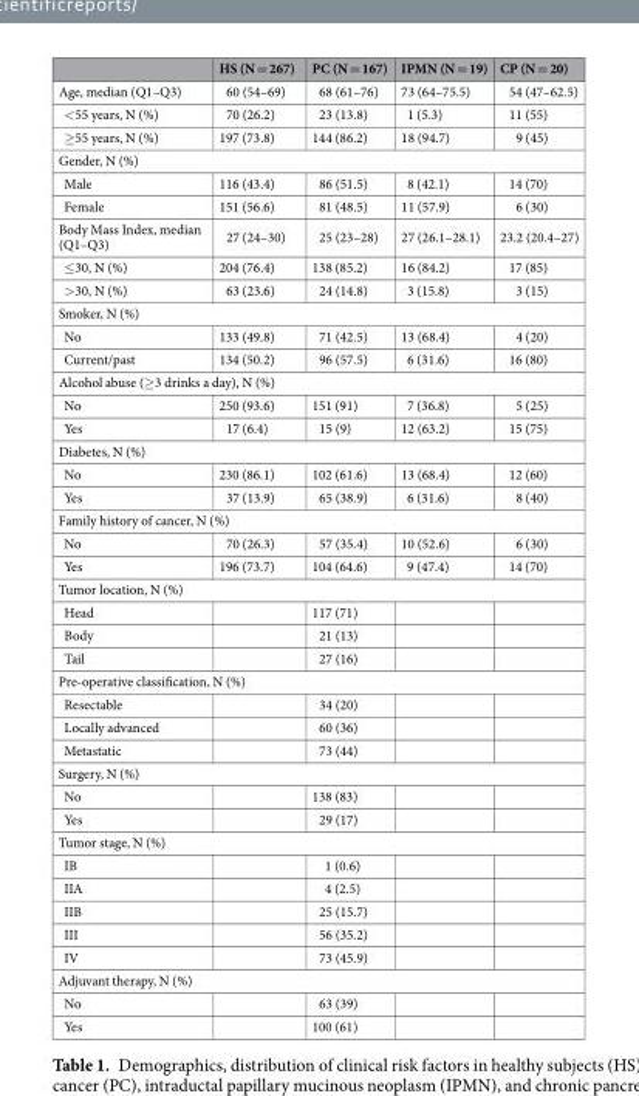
<table><thead><tr><td></td><td>HS (N = 267)</td><td>PC (N = 167)</td><td>IPMN (N = 19)</td><td>CP (N = 20)</td></tr></thead><tbody><tr><td>Age, median (Q1–Q3)</td><td>60 (54–69)</td><td>68 (61–76)</td><td>73 (64–75.5)</td><td>54 (47–62.5)</td></tr><tr><td>&lt;55 years, N (%)</td><td>70 (26.2)</td><td>23 (13.8)</td><td>1 (5.3)</td><td>11 (55)</td></tr><tr><td>≥55 years, N (%)</td><td>197 (73.8)</td><td>144 (86.2)</td><td>18 (94.7)</td><td>9 (45)</td></tr><tr><td colspan="5">Gender, N (%)</td></tr><tr><td>Male</td><td>116 (43.4)</td><td>86 (51.5)</td><td>8 (42.1)</td><td>14 (70)</td></tr><tr><td>Female</td><td>151 (56.6)</td><td>81 (48.5)</td><td>11 (57.9)</td><td>6 (30)</td></tr><tr><td>Body Mass Index, median (Q1–Q3)</td><td>27 (24–30)</td><td>25 (23–28)</td><td>27 (26.1–28.1)</td><td>23.2 (20.4–27)</td></tr><tr><td>≤30, N (%)</td><td>204 (76.4)</td><td>138 (85.2)</td><td>16 (84.2)</td><td>17 (85)</td></tr><tr><td>&gt;30, N (%)</td><td>63 (23.6)</td><td>24 (14.8)</td><td>3 (15.8)</td><td>3 (15)</td></tr><tr><td colspan="5">Smoker, N (%)</td></tr><tr><td>No</td><td>133 (49.8)</td><td>71 (42.5)</td><td>13 (68.4)</td><td>4 (20)</td></tr><tr><td>Current/past</td><td>134 (50.2)</td><td>96 (57.5)</td><td>6 (31.6)</td><td>16 (80)</td></tr><tr><td colspan="5">Alcohol abuse (≥3 drinks a day), N (%)</td></tr><tr><td>No</td><td>250 (93.6)</td><td>151 (91)</td><td>7 (36.8)</td><td>5 (25)</td></tr><tr><td>Yes</td><td>17 (6.4)</td><td>15 (9)</td><td>12 (63.2)</td><td>15 (75)</td></tr><tr><td colspan="5">Diabetes, N (%)</td></tr><tr><td>No</td><td>230 (86.1)</td><td>102 (61.6)</td><td>13 (68.4)</td><td>12 (60)</td></tr><tr><td>Yes</td><td>37 (13.9)</td><td>65 (38.9)</td><td>6 (31.6)</td><td>8 (40)</td></tr><tr><td colspan="5">Family history of cancer, N (%)</td></tr><tr><td>No</td><td>70 (26.3)</td><td>57 (35.4)</td><td>10 (52.6)</td><td>6 (30)</td></tr><tr><td>Yes</td><td>196 (73.7)</td><td>104 (64.6)</td><td>9 (47.4)</td><td>14 (70)</td></tr><tr><td colspan="5">Tumor location, N (%)</td></tr><tr><td>Head</td><td></td><td>117 (71)</td><td></td><td></td></tr><tr><td>Body</td><td></td><td>21 (13)</td><td></td><td></td></tr><tr><td>Tail</td><td></td><td>27 (16)</td><td></td><td></td></tr><tr><td colspan="5">Pre-operative classification, N (%)</td></tr><tr><td>Resectable</td><td></td><td>34 (20)</td><td></td><td></td></tr><tr><td>Locally advanced</td><td></td><td>60 (36)</td><td></td><td></td></tr><tr><td>Metastatic</td><td></td><td>73 (44)</td><td></td><td></td></tr><tr><td colspan="5">Surgery, N (%)</td></tr><tr><td>No</td><td></td><td>138 (83)</td><td></td><td></td></tr><tr><td>Yes</td><td></td><td>29 (17)</td><td></td><td></td></tr><tr><td colspan="5">Tumor stage, N (%)</td></tr><tr><td>IB</td><td></td><td>1 (0.6)</td><td></td><td></td></tr><tr><td>IIA</td><td></td><td>4 (2.5)</td><td></td><td></td></tr><tr><td>IIB</td><td></td><td>25 (15.7)</td><td></td><td></td></tr><tr><td>III</td><td></td><td>56 (35.2)</td><td></td><td></td></tr><tr><td>IV</td><td></td><td>73 (45.9)</td><td></td><td></td></tr><tr><td colspan="5">Adjuvant therapy, N (%)</td></tr><tr><td>No</td><td></td><td>63 (39)</td><td></td><td></td></tr><tr><td>Yes</td><td></td><td>100 (61)</td><td></td><td></td></tr></tbody></table>